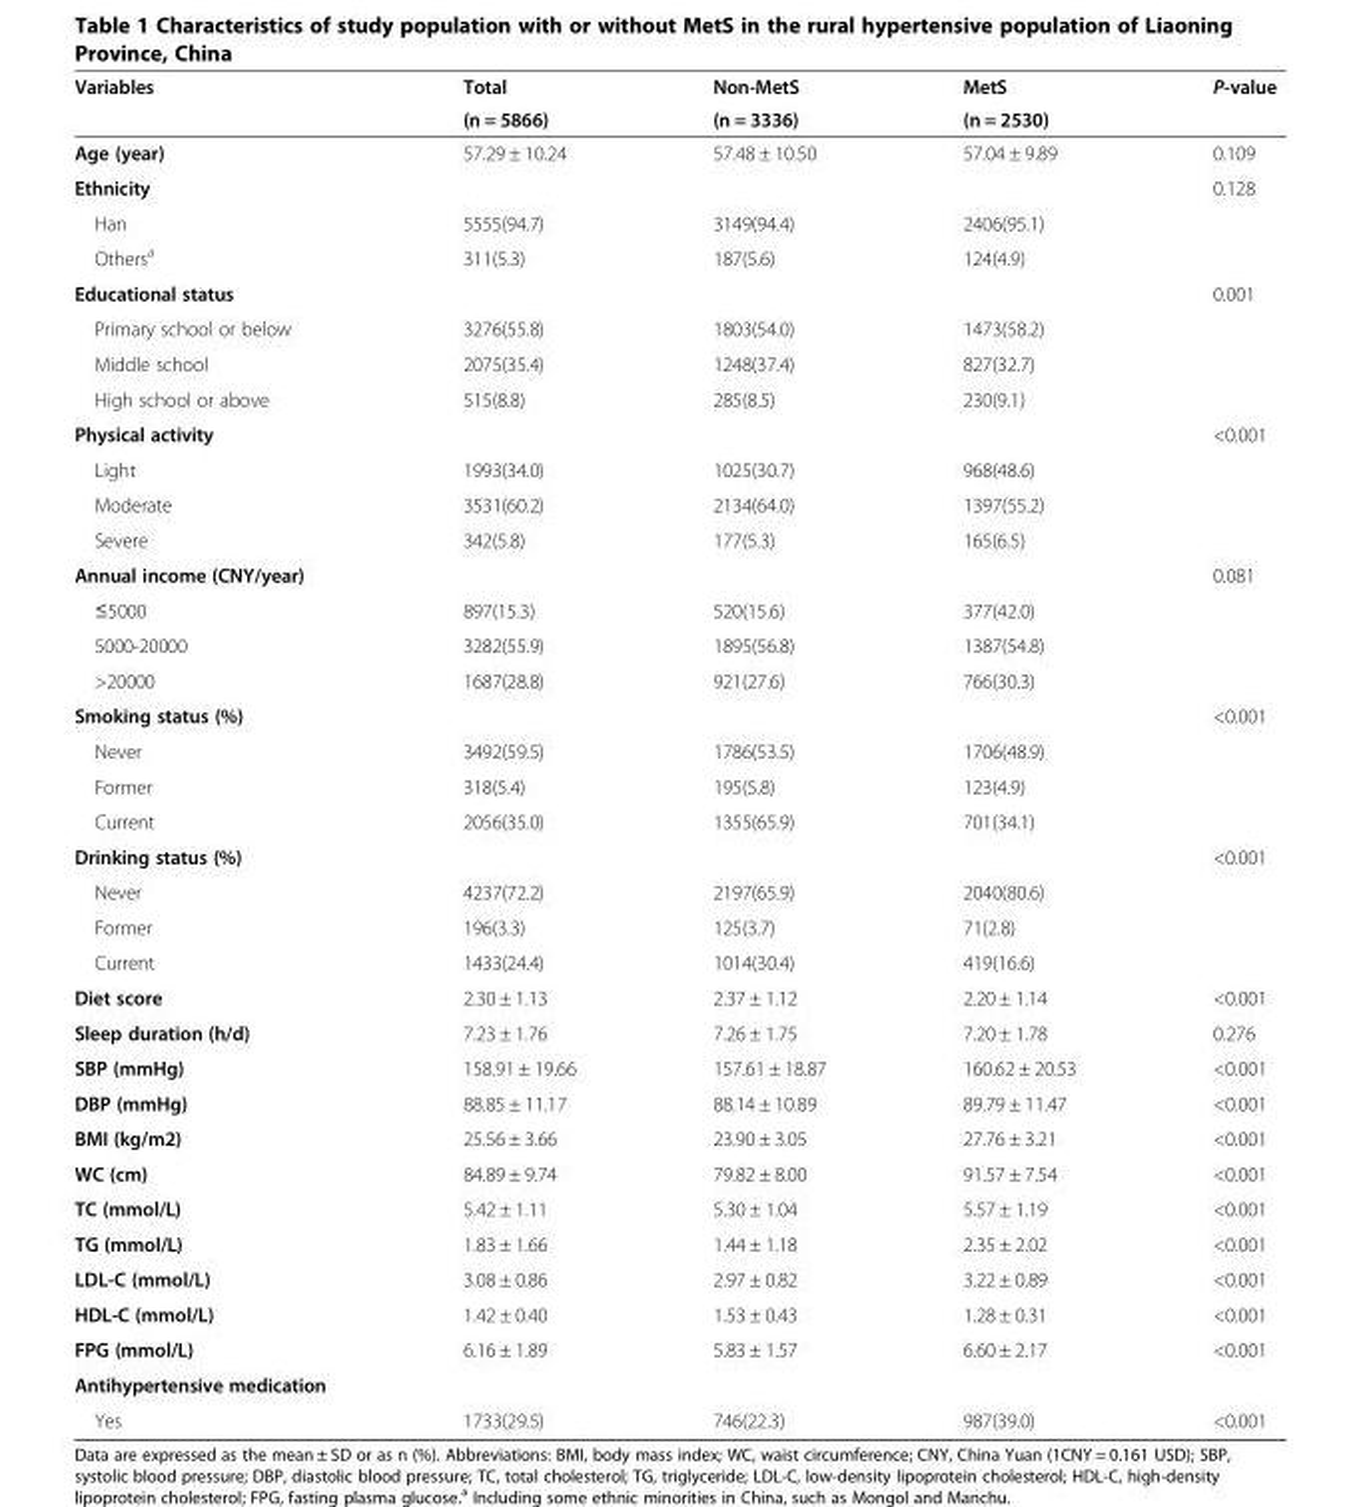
<table><thead><tr><td rowspan="2">Variables</td><td rowspan="2">Total (n = 5866)</td><td rowspan="2">Non-MetS (n = 3336)</td><td rowspan="2">MetS (n = 2530)</td><td rowspan="2">P-value</td></tr><tr></tr></thead><tbody><tr><td>Age (year)</td><td>57.29 ± 10.24</td><td>57.48 ± 10.50</td><td>57.04 ± 9.89</td><td>0.109</td></tr><tr><td>Ethnicity</td><td></td><td></td><td></td><td>0.128</td></tr><tr><td>Han</td><td>5555(94.7)</td><td>3149(94.4)</td><td>2406(95.1)</td><td></td></tr><tr><td>Others<sup>a</sup></td><td>311(5.3)</td><td>187(5.6)</td><td>124(4.9)</td><td></td></tr><tr><td>Educational status</td><td></td><td></td><td></td><td>0.001</td></tr><tr><td>Primary school or below</td><td>3276(55.8)</td><td>1803(54.0)</td><td>1473(58.2)</td><td></td></tr><tr><td>Middle school</td><td>2075(35.4)</td><td>1248(37.4)</td><td>827(32.7)</td><td></td></tr><tr><td>High school or above</td><td>515(8.8)</td><td>285(8.5)</td><td>230(9.1)</td><td></td></tr><tr><td>Physical activity</td><td></td><td></td><td></td><td>&lt;0.001</td></tr><tr><td>Light</td><td>1993(34.0)</td><td>1025(30.7)</td><td>968(48.6)</td><td></td></tr><tr><td>Moderate</td><td>3531(60.2)</td><td>2134(64.0)</td><td>1397(55.2)</td><td></td></tr><tr><td>Severe</td><td>342(5.8)</td><td>177(5.3)</td><td>165(6.5)</td><td></td></tr><tr><td>Annual income (CNY/year)</td><td></td><td></td><td></td><td>0.081</td></tr><tr><td>≤5000</td><td>897(15.3)</td><td>520(15.6)</td><td>377(42.0)</td><td></td></tr><tr><td>5000-20000</td><td>3282(55.9)</td><td>1895(56.8)</td><td>1387(54.8)</td><td></td></tr><tr><td>&gt;20000</td><td>1687(28.8)</td><td>921(27.6)</td><td>766(30.3)</td><td></td></tr><tr><td>Smoking status (%)</td><td></td><td></td><td></td><td>&lt;0.001</td></tr><tr><td>Never</td><td>3492(59.5)</td><td>1786(53.5)</td><td>1706(48.9)</td><td></td></tr><tr><td>Former</td><td>318(5.4)</td><td>195(5.8)</td><td>123(4.9)</td><td></td></tr><tr><td>Current</td><td>2056(35.0)</td><td>1355(65.9)</td><td>701(34.1)</td><td></td></tr><tr><td>Drinking status (%)</td><td></td><td></td><td></td><td>&lt;0.001</td></tr><tr><td>Never</td><td>4237(72.2)</td><td>2197(65.9)</td><td>2040(80.6)</td><td></td></tr><tr><td>Former</td><td>196(3.3)</td><td>125(3.7)</td><td>71(2.8)</td><td></td></tr><tr><td>Current</td><td>1433(24.4)</td><td>1014(30.4)</td><td>419(16.6)</td><td></td></tr><tr><td>Diet score</td><td>2.30 ± 1.13</td><td>2.37 ± 1.12</td><td>2.20 ± 1.14</td><td>&lt;0.001</td></tr><tr><td>Sleep duration (h/d)</td><td>7.23 ± 1.76</td><td>7.26 ± 1.75</td><td>7.20 ± 1.78</td><td>0.276</td></tr><tr><td>SBP (mmHg)</td><td>158.91 ± 19.66</td><td>157.61 ± 18.87</td><td>160.62 ± 20.53</td><td>&lt;0.001</td></tr><tr><td>DBP (mmHg)</td><td>88.85 ± 11.17</td><td>88.14 ± 10.89</td><td>89.79 ± 11.47</td><td>&lt;0.001</td></tr><tr><td>BMI (kg/m2)</td><td>25.56 ± 3.66</td><td>23.90 ± 3.05</td><td>27.76 ± 3.21</td><td>&lt;0.001</td></tr><tr><td>WC (cm)</td><td>84.89 ± 9.74</td><td>79.82 ± 8.00</td><td>91.57 ± 7.54</td><td>&lt;0.001</td></tr><tr><td>TC (mmol/L)</td><td>5.42 ± 1.11</td><td>5.30 ± 1.04</td><td>5.57 ± 1.19</td><td>&lt;0.001</td></tr><tr><td>TG (mmol/L)</td><td>1.83 ± 1.66</td><td>1.44 ± 1.18</td><td>2.35 ± 2.02</td><td>&lt;0.001</td></tr><tr><td>LDL-C (mmol/L)</td><td>3.08 ± 0.86</td><td>2.97 ± 0.82</td><td>3.22 ± 0.89</td><td>&lt;0.001</td></tr><tr><td>HDL-C (mmol/L)</td><td>1.42 ± 0.40</td><td>1.53 ± 0.43</td><td>1.28 ± 0.31</td><td>&lt;0.001</td></tr><tr><td>FPG (mmol/L)</td><td>6.16 ± 1.89</td><td>5.83 ± 1.57</td><td>6.60 ± 2.17</td><td>&lt;0.001</td></tr><tr><td colspan="5">Antihypertensive medication</td></tr><tr><td>Yes</td><td>1733(29.5)</td><td>746(22.3)</td><td>987(39.0)</td><td>&lt;0.001</td></tr></tbody></table>